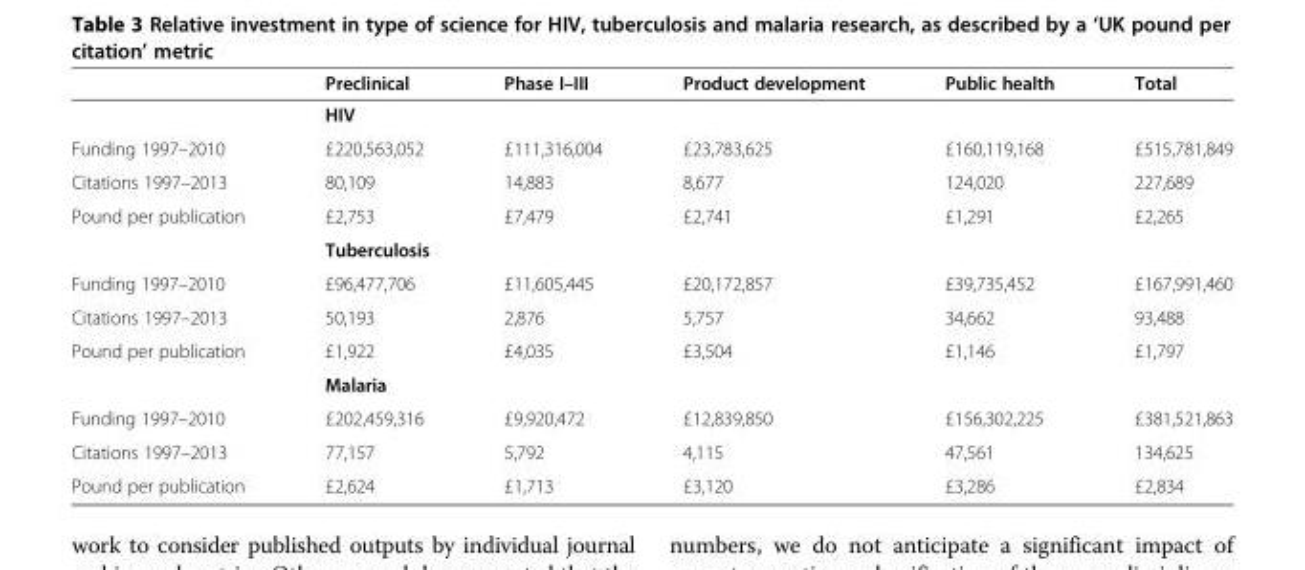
<table><thead><tr><td></td><td>Preclinical</td><td>Phase I–III</td><td>Product development</td><td>Public health</td><td>Total</td></tr></thead><tbody><tr><td></td><td>HIV</td><td></td><td></td><td></td><td></td></tr><tr><td>Funding 1997–2010</td><td>£220,563,052</td><td>£111,316,004</td><td>£23,783,625</td><td>£160,119,168</td><td>£515,781,849</td></tr><tr><td>Citations 1997–2013</td><td>80,109</td><td>14,883</td><td>8,677</td><td>124,020</td><td>227,689</td></tr><tr><td rowspan="2">Pound per publication</td><td>£2,753</td><td>£7,479</td><td>£2,741</td><td>£1,291</td><td>£2,265</td></tr><tr><td colspan="5">Tuberculosis</td></tr><tr><td>Funding 1997–2010</td><td>£96,477,706</td><td>£11,605,445</td><td>£20,172,857</td><td>£39,735,452</td><td>£167,991,460</td></tr><tr><td>Citations 1997–2013</td><td>50,193</td><td>2,876</td><td>5,757</td><td>34,662</td><td>93,488</td></tr><tr><td rowspan="2">Pound per publication</td><td>£1,922</td><td>£4,035</td><td>£3,504</td><td>£1,146</td><td>£1,797</td></tr><tr><td colspan="5">Malaria</td></tr><tr><td>Funding 1997–2010</td><td>£202,459,316</td><td>£9,920,472</td><td>£12,839,850</td><td>£156,302,225</td><td>£381,521,863</td></tr><tr><td>Citations 1997–2013</td><td>77,157</td><td>5,792</td><td>4,115</td><td>47,561</td><td>134,625</td></tr><tr><td>Pound per publication</td><td>£2,624</td><td>£1,713</td><td>£3,120</td><td>£3,286</td><td>£2,834</td></tr></tbody></table>